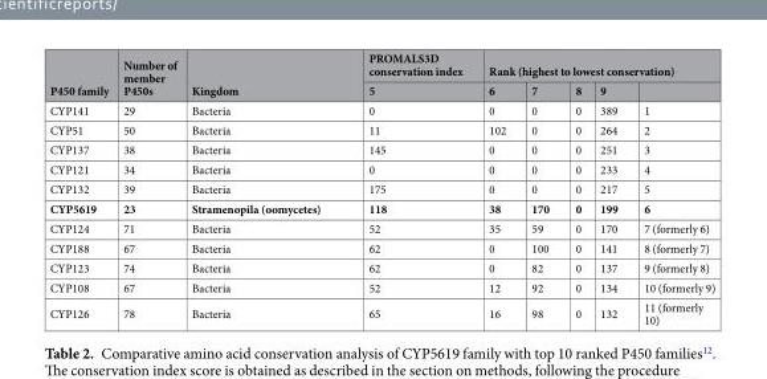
<table><thead><tr><td rowspan="2">P450 family</td><td rowspan="2">Number of member P450s</td><td rowspan="2">Kingdom</td><td rowspan="2">PROMALS3D conservation index 5</td><td colspan="5">Rank (highest to lowest conservation)</td></tr><tr><td>6</td><td>7</td><td>8</td><td>9</td><td></td></tr></thead><tbody><tr><td>CYP141</td><td>29</td><td>Bacteria</td><td>0</td><td>0</td><td>0</td><td>0</td><td>389</td><td>1</td></tr><tr><td>CYP51</td><td>50</td><td>Bacteria</td><td>11</td><td>102</td><td>0</td><td>0</td><td>264</td><td>2</td></tr><tr><td>CYP137</td><td>38</td><td>Bacteria</td><td>145</td><td>0</td><td>0</td><td>0</td><td>251</td><td>3</td></tr><tr><td>CYP121</td><td>34</td><td>Bacteria</td><td>0</td><td>0</td><td>0</td><td>0</td><td>233</td><td>4</td></tr><tr><td>CYP132</td><td>39</td><td>Bacteria</td><td>175</td><td>0</td><td>0</td><td>0</td><td>217</td><td>5</td></tr><tr><td>CYP5619</td><td>23</td><td>Stramenopila (oomycetes)</td><td>118</td><td>38</td><td>170</td><td>0</td><td>199</td><td>6</td></tr><tr><td>CYP124</td><td>71</td><td>Bacteria</td><td>52</td><td>35</td><td>59</td><td>0</td><td>170</td><td>7 (formerly 6)</td></tr><tr><td>CYP188</td><td>67</td><td>Bacteria</td><td>62</td><td>0</td><td>100</td><td>0</td><td>141</td><td>8 (formerly 7)</td></tr><tr><td>CYP123</td><td>74</td><td>Bacteria</td><td>62</td><td>0</td><td>82</td><td>0</td><td>137</td><td>9 (formerly 8)</td></tr><tr><td>CYP108</td><td>67</td><td>Bacteria</td><td>52</td><td>12</td><td>92</td><td>0</td><td>134</td><td>10 (formerly 9)</td></tr><tr><td>CYP126</td><td>78</td><td>Bacteria</td><td>65</td><td>16</td><td>98</td><td>0</td><td>132</td><td>11 (formerly 10)</td></tr></tbody></table>